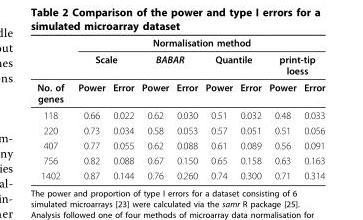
<table><thead><tr><td rowspan="3">No. of genes</td><td colspan="8">Normalisation method</td></tr><tr><td colspan="2">Scale</td><td colspan="2">BABAR</td><td colspan="2">Quantile</td><td colspan="2">print-tip loess</td></tr><tr><td>Power</td><td>Error</td><td>Power</td><td>Error</td><td>Power</td><td>Error</td><td>Power</td><td>Error</td></tr></thead><tbody><tr><td>118</td><td>0.66</td><td>0.022</td><td>0.62</td><td>0.030</td><td>0.51</td><td>0.032</td><td>0.48</td><td>0.033</td></tr><tr><td>220</td><td>0.73</td><td>0.034</td><td>0.58</td><td>0.053</td><td>0.57</td><td>0.051</td><td>0.51</td><td>0.056</td></tr><tr><td>407</td><td>0.77</td><td>0.055</td><td>0.62</td><td>0.088</td><td>0.61</td><td>0.089</td><td>0.56</td><td>0.091</td></tr><tr><td>756</td><td>0.82</td><td>0.088</td><td>0.67</td><td>0.150</td><td>0.65</td><td>0.158</td><td>0.63</td><td>0.163</td></tr><tr><td>1402</td><td>0.87</td><td>0.144</td><td>0.76</td><td>0.260</td><td>0.74</td><td>0.300</td><td>0.71</td><td>0.314</td></tr></tbody></table>